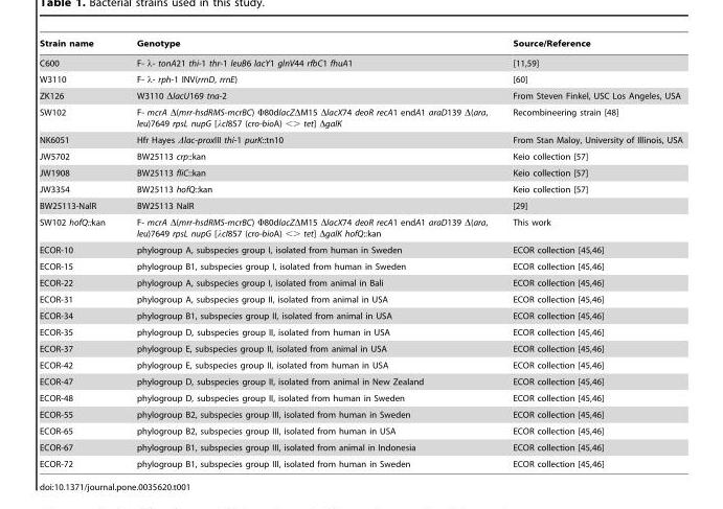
<table><thead><tr><td>Strain name</td><td>Genotype</td><td>Source/Reference</td></tr></thead><tbody><tr><td>C600</td><td>F- λ- tonA21 thi-1 thr-1 leuB6 lacY1 glnV44 rfbC1 fhuA1</td><td>[11,59]</td></tr><tr><td>W3110</td><td>F- λ- rph-1 INV(rrnD, rrnE)</td><td>[60]</td></tr><tr><td>ZK126</td><td>W3110 ΔlacU169 tna-2</td><td>From Steven Finkel, USC Los Angeles, USA</td></tr><tr><td>SW102</td><td>F- mcrA Δ(mrr-hsdRMS-mcrBC) Φ80dlacZΔM15 ΔlacX74 deoR recA1 endA1 araD139 Δ(ara, leu)7649 rpsL nupG [λcI857 (cro-bioA) &lt;&gt; tet] ΔgalK</td><td>Recombineering strain [48]</td></tr><tr><td>NK6051</td><td>Hfr Hayes Δlac-proxIII thi-1 purK::tn10</td><td>From Stan Maloy, University of Illinois, USA</td></tr><tr><td>JW5702</td><td>BW25113 crp::kan</td><td>Keio collection [57]</td></tr><tr><td>JW1908</td><td>BW25113 fliC::kan</td><td>Keio collection [57]</td></tr><tr><td>JW3354</td><td>BW25113 hofQ::kan</td><td>Keio collection [57]</td></tr><tr><td>BW25113-NalR</td><td>BW25113 NalR</td><td>[29]</td></tr><tr><td>SW102 hofQ::kan</td><td>F- mcrA Δ(mrr-hsdRMS-mcrBC) Φ80dlacZΔM15 ΔlacX74 deoR recA1 endA1 araD139 Δ(ara, leu)7649 rpsL nupG [λcI857 (cro-bioA) &lt;&gt; tet] ΔgalK hofQ::kan</td><td>This work</td></tr><tr><td>ECOR-10</td><td>phylogroup A, subspecies group I, isolated from human in Sweden</td><td>ECOR collection [45,46]</td></tr><tr><td>ECOR-15</td><td>phylogroup B1, subspecies group I, isolated from human in Sweden</td><td>ECOR collection [45,46]</td></tr><tr><td>ECOR-22</td><td>phylogroup A, subspecies group I, isolated from animal in Bali</td><td>ECOR collection [45,46]</td></tr><tr><td>ECOR-31</td><td>phylogroup A, subspecies group II, isolated from animal in USA</td><td>ECOR collection [45,46]</td></tr><tr><td>ECOR-34</td><td>phylogroup B1, subspecies group II, isolated from animal in USA</td><td>ECOR collection [45,46]</td></tr><tr><td>ECOR-35</td><td>phylogroup D, subspecies group II, isolated from human in USA</td><td>ECOR collection [45,46]</td></tr><tr><td>ECOR-37</td><td>phylogroup E, subspecies group II, isolated from animal in USA</td><td>ECOR collection [45,46]</td></tr><tr><td>ECOR-42</td><td>phylogroup E, subspecies group II, isolated from human in USA</td><td>ECOR collection [45,46]</td></tr><tr><td>ECOR-47</td><td>phylogroup D, subspecies group II, isolated from animal in New Zealand</td><td>ECOR collection [45,46]</td></tr><tr><td>ECOR-48</td><td>phylogroup D, subspecies group II, isolated from human in Sweden</td><td>ECOR collection [45,46]</td></tr><tr><td>ECOR-55</td><td>phylogroup B2, subspecies group III, isolated from human in Sweden</td><td>ECOR collection [45,46]</td></tr><tr><td>ECOR-65</td><td>phylogroup B2, subspecies group III, isolated from human in USA</td><td>ECOR collection [45,46]</td></tr><tr><td>ECOR-67</td><td>phylogroup B1, subspecies group III, isolated from animal in Indonesia</td><td>ECOR collection [45,46]</td></tr><tr><td>ECOR-72</td><td>phylogroup B1, subspecies group III, isolated from human in Sweden</td><td>ECOR collection [45,46]</td></tr></tbody></table>